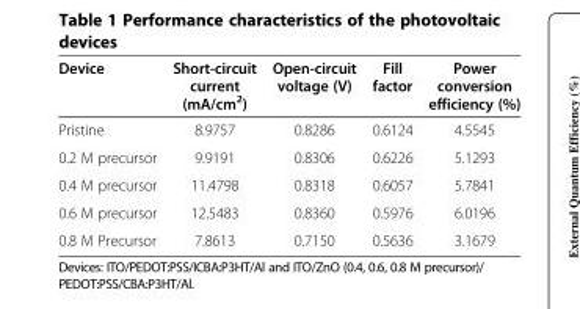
<table><thead><tr><td>Device</td><td>Short-circuit current (mA/cm<sup>2</sup>)</td><td>Open-circuit voltage (V)</td><td>Fill factor</td><td>Power conversion efficiency (%)</td></tr></thead><tbody><tr><td>Pristine</td><td>8.9757</td><td>0.8286</td><td>0.6124</td><td>4.5545</td></tr><tr><td>0.2 M precursor</td><td>9.9191</td><td>0.8306</td><td>0.6226</td><td>5.1293</td></tr><tr><td>0.4 M precursor</td><td>11.4798</td><td>0.8318</td><td>0.6057</td><td>5.7841</td></tr><tr><td>0.6 M precursor</td><td>12.5483</td><td>0.8360</td><td>0.5976</td><td>6.0196</td></tr><tr><td>0.8 M Precursor</td><td>7.8613</td><td>0.7150</td><td>0.5636</td><td>3.1679</td></tr></tbody></table>